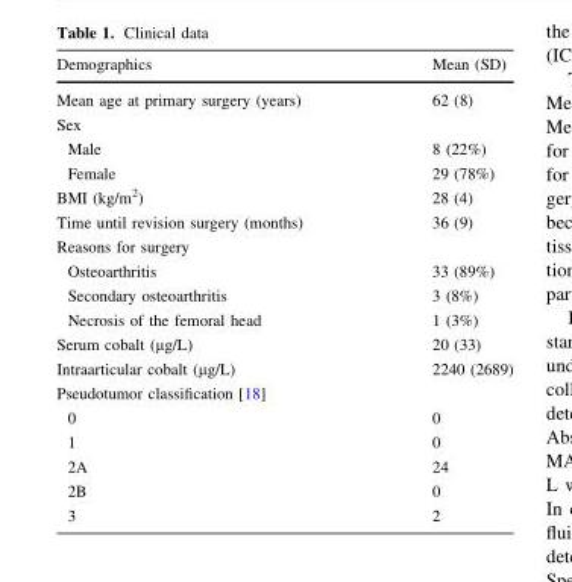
<table><thead><tr><td>Demographics</td><td>Mean (SD)</td></tr></thead><tbody><tr><td>Mean age at primary surgery (years)</td><td>62 (8)</td></tr><tr><td colspan="2">Sex</td></tr><tr><td>Male</td><td>8 (22%)</td></tr><tr><td>Female</td><td>29 (78%)</td></tr><tr><td>BMI (kg/m<sup>2</sup>)</td><td>28 (4)</td></tr><tr><td>Time until revision surgery (months)</td><td>36 (9)</td></tr><tr><td colspan="2">Reasons for surgery</td></tr><tr><td>Osteoarthritis</td><td>33 (89%)</td></tr><tr><td>Secondary osteoarthritis</td><td>3 (8%)</td></tr><tr><td>Necrosis of the femoral head</td><td>1 (3%)</td></tr><tr><td>Serum cobalt (µg/L)</td><td>20 (33)</td></tr><tr><td>Intraarticular cobalt (µg/L)</td><td>2240 (2689)</td></tr><tr><td colspan="2">Pseudotumor classification [18]</td></tr><tr><td>0</td><td>0</td></tr><tr><td>1</td><td>0</td></tr><tr><td>2A</td><td>24</td></tr><tr><td>2B</td><td>0</td></tr><tr><td>3</td><td>2</td></tr></tbody></table>